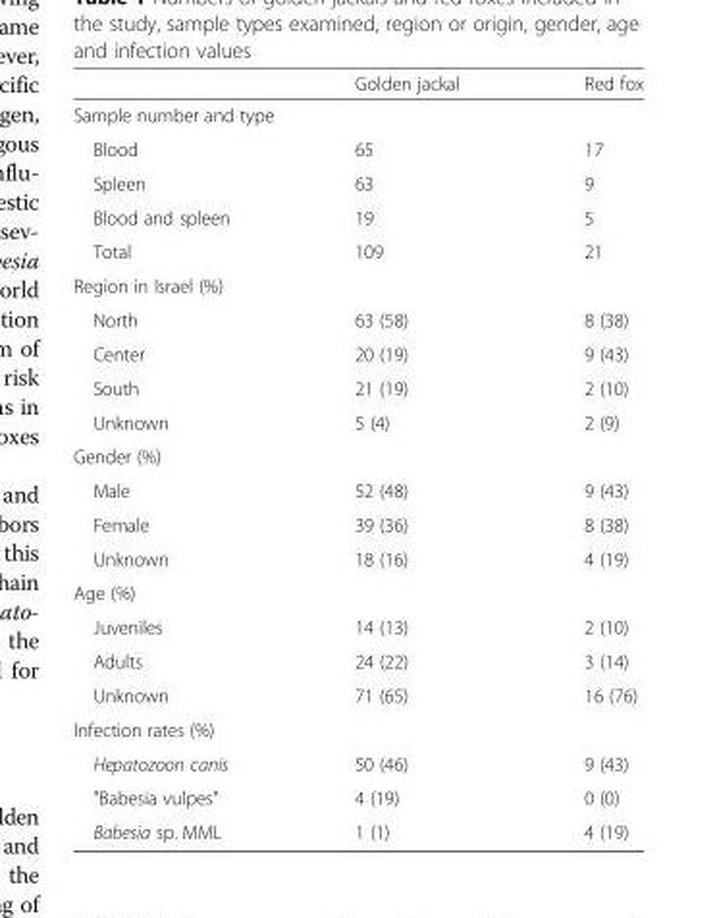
<table><thead><tr><td></td><td>Golden jackal</td><td>Red fox</td></tr></thead><tbody><tr><td colspan="3">Sample number and type</td></tr><tr><td>Blood</td><td>65</td><td>17</td></tr><tr><td>Spleen</td><td>63</td><td>9</td></tr><tr><td>Blood and spleen</td><td>19</td><td>5</td></tr><tr><td>Total</td><td>109</td><td>21</td></tr><tr><td colspan="3">Region in Israel (%)</td></tr><tr><td>North</td><td>63 (58)</td><td>8 (38)</td></tr><tr><td>Center</td><td>20 (19)</td><td>9 (43)</td></tr><tr><td>South</td><td>21 (19)</td><td>2 (10)</td></tr><tr><td>Unknown</td><td>5 (4)</td><td>2 (9)</td></tr><tr><td colspan="3">Gender (%)</td></tr><tr><td>Male</td><td>52 (48)</td><td>9 (43)</td></tr><tr><td>Female</td><td>39 (36)</td><td>8 (38)</td></tr><tr><td>Unknown</td><td>18 (16)</td><td>4 (19)</td></tr><tr><td colspan="3">Age (%)</td></tr><tr><td>Juveniles</td><td>14 (13)</td><td>2 (10)</td></tr><tr><td>Adults</td><td>24 (22)</td><td>3 (14)</td></tr><tr><td>Unknown</td><td>71 (65)</td><td>16 (76)</td></tr><tr><td colspan="3">Infection rates (%)</td></tr><tr><td>Hepatozoon canis</td><td>50 (46)</td><td>9 (43)</td></tr><tr><td>&quot;Babesia vulpes&quot;</td><td>4 (19)</td><td>0 (0)</td></tr><tr><td>Babesia sp. MML</td><td>1 (1)</td><td>4 (19)</td></tr></tbody></table>